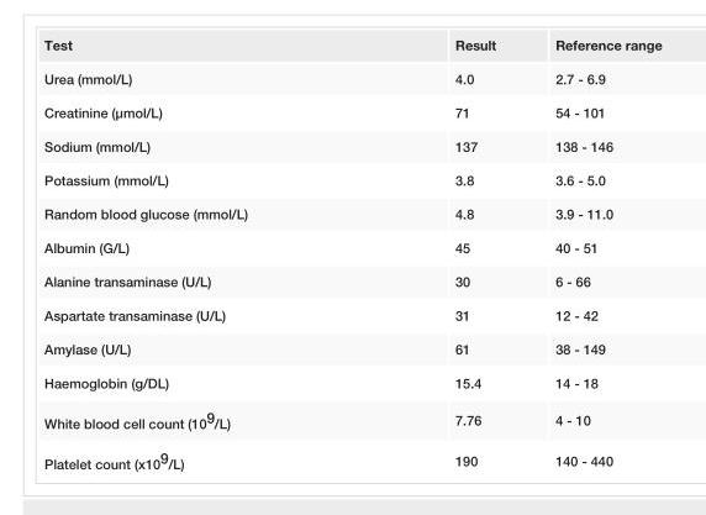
<table><tbody><tr><td>Test</td><td>Result</td><td>Reference range</td></tr><tr><td>Urea (mmol/L)</td><td>4.0</td><td>2.7 - 6.9</td></tr><tr><td>Creatinine (µmol/L)</td><td>71</td><td>54 - 101</td></tr><tr><td>Sodium (mmol/L)</td><td>137</td><td>138 - 146</td></tr><tr><td>Potassium (mmol/L)</td><td>3.8</td><td>3.6 - 5.0</td></tr><tr><td>Random blood glucose (mmol/L)</td><td>4.8</td><td>3.9 - 11.0</td></tr><tr><td>Albumin (G/L)</td><td>45</td><td>40 - 51</td></tr><tr><td>Alanine transaminase (U/L)</td><td>30</td><td>6 - 66</td></tr><tr><td>Aspartate transaminase (U/L)</td><td>31</td><td>12 - 42</td></tr><tr><td>Amylase (U/L)</td><td>61</td><td>38 - 149</td></tr><tr><td>Haemoglobin (g/DL)</td><td>15.4</td><td>14 - 18</td></tr><tr><td>White blood cell count (10 <sup>9</sup>/L)</td><td>7.76</td><td>4 - 10</td></tr><tr><td>Platelet count (x10 <sup>9</sup>/L)</td><td>190</td><td>140 - 440</td></tr></tbody></table>